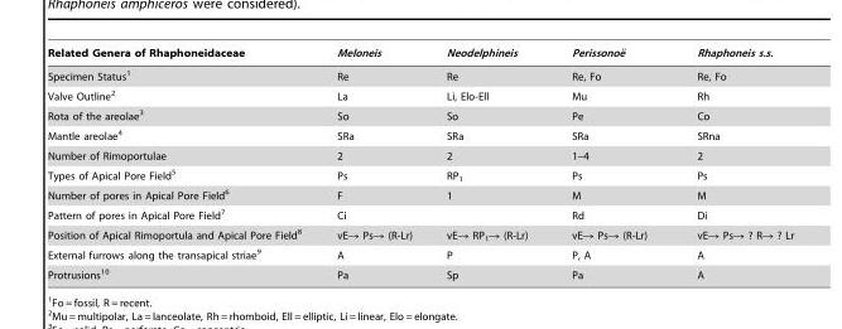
<table><thead><tr><td>Related Genera of Rhaphoneidaceae</td><td>Meloneis</td><td>Neodelphineis</td><td>Perissonoe¨</td><td>Rhaphoneis s.s.</td></tr></thead><tbody><tr><td>Specimen Status<sup>1</sup></td><td>Re</td><td>Re</td><td>Re, Fo</td><td>Re, Fo</td></tr><tr><td>Valve Outline<sup>2</sup></td><td>La</td><td>Li, Elo-Ell</td><td>Mu</td><td>Rh</td></tr><tr><td>Rota of the areolae<sup>3</sup></td><td>So</td><td>So</td><td>Pe</td><td>Co</td></tr><tr><td>Mantle areolae<sup>4</sup></td><td>SRa</td><td>SRa</td><td>SRa</td><td>SRna</td></tr><tr><td>Number of Rimoportulae</td><td>2</td><td>2</td><td>1–4</td><td>2</td></tr><tr><td>Types of Apical Pore Field<sup>5</sup></td><td>Ps</td><td>RP<sub>1</sub></td><td>Ps</td><td>Ps</td></tr><tr><td>Number of pores in Apical Pore Field<sup>6</sup></td><td>F</td><td>1</td><td>M</td><td>M</td></tr><tr><td>Pattern of pores in Apical Pore Field<sup>7</sup></td><td>Ci</td><td></td><td>Rd</td><td>Di</td></tr><tr><td>Position of Apical Rimoportula and Apical Pore Field<sup>8</sup></td><td>vE→ Ps→ (R-Lr)</td><td>vE→ RP<sub>1</sub>→ (R-Lr)</td><td>vE→ Ps→ (R-Lr)</td><td>vE→ Ps→ ? R→ ? Lr</td></tr><tr><td>External furrows along the transapical striae<sup>9</sup></td><td>A</td><td>P</td><td>P, A</td><td>A</td></tr><tr><td>Protrusions<sup>10</sup></td><td>Pa</td><td>Sp</td><td>Pa</td><td>A</td></tr></tbody></table>